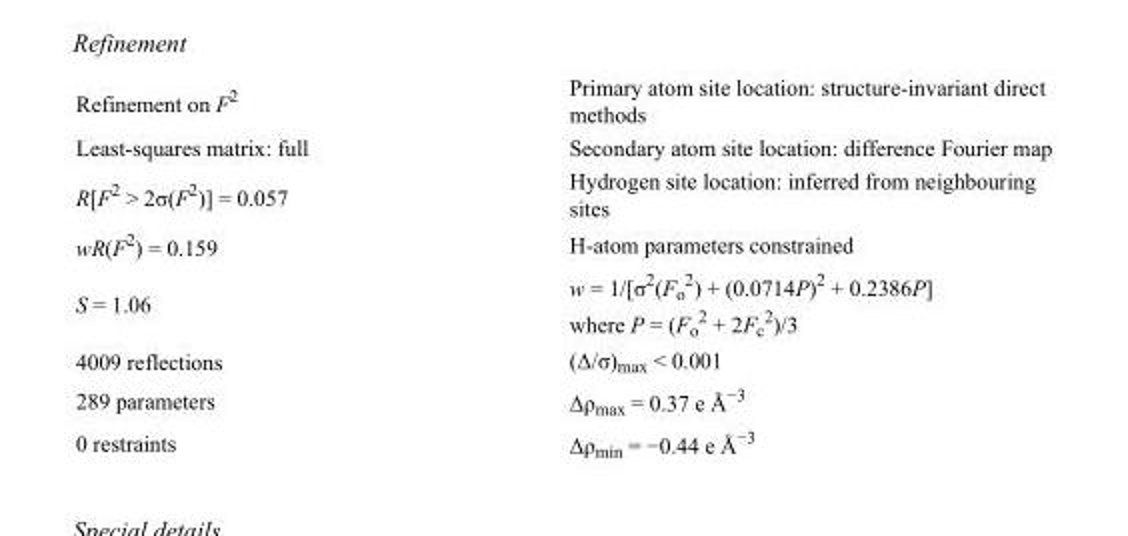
<table><tbody><tr><td>Refinement on F<sup>2</sup></td><td>Primary atom site location: structure-invariant direct methods</td></tr><tr><td>Least-squares matrix: full</td><td>Secondary atom site location: difference Fourier map</td></tr><tr><td>R[F<sup>2</sup> &gt; 2σ(F<sup>2</sup>)] = 0.057</td><td>Hydrogen site location: inferred from neighbouring sites</td></tr><tr><td>wR(F<sup>2</sup>) = 0.159</td><td>H-atom parameters constrained</td></tr><tr><td>S = 1.06</td><td>w = 1/[σ<sup>2</sup>(F<sub>o</sub> <sup>2</sup>) + (0.0714P)<sup>2</sup> + 0.2386P] where P = (F<sub>o</sub> <sup>2</sup> + 2F<sub>c</sub> <sup>2</sup>)/3</td></tr><tr><td>4009 reflections</td><td>(Δ/σ)<sub>max</sub> &lt; 0.001</td></tr><tr><td>289 parameters</td><td>Δρ<sub>max</sub> = 0.37 e Å<sup>−3</sup></td></tr><tr><td>0 restraints</td><td>Δρ<sub>min</sub> = −0.44 e Å<sup>−3</sup></td></tr></tbody></table>